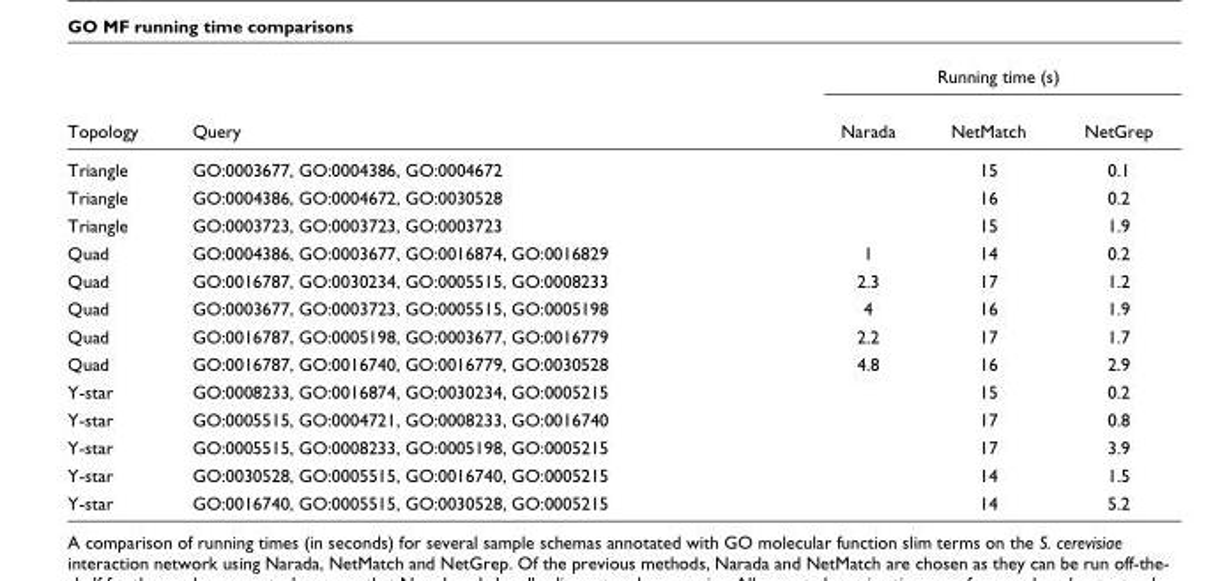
<table><thead><tr><td rowspan="2">Topology</td><td rowspan="2">Query</td><td colspan="3">Running time (s)</td></tr><tr><td>Narada</td><td>NetMatch</td><td>NetGrep</td></tr></thead><tbody><tr><td>Triangle</td><td>GO:0003677, GO:0004386, GO:0004672</td><td></td><td>15</td><td>0.1</td></tr><tr><td>Triangle</td><td>GO:0004386, GO:0004672, GO:0030528</td><td></td><td>16</td><td>0.2</td></tr><tr><td>Triangle</td><td>GO:0003723, GO:0003723, GO:0003723</td><td></td><td>15</td><td>1.9</td></tr><tr><td>Quad</td><td>GO:0004386, GO:0003677, GO:0016874, GO:0016829</td><td>1</td><td>14</td><td>0.2</td></tr><tr><td>Quad</td><td>GO:0016787, GO:0030234, GO:0005515, GO:0008233</td><td>2.3</td><td>17</td><td>1.2</td></tr><tr><td>Quad</td><td>GO:0003677, GO:0003723, GO:0005515, GO:0005198</td><td>4</td><td>16</td><td>1.9</td></tr><tr><td>Quad</td><td>GO:0016787, GO:0005198, GO:0003677, GO:0016779</td><td>2.2</td><td>17</td><td>1.7</td></tr><tr><td>Quad</td><td>GO:0016787, GO:0016740, GO:0016779, GO:0030528</td><td>4.8</td><td>16</td><td>2.9</td></tr><tr><td>Y-star</td><td>GO:0008233, GO:0016874, GO:0030234, GO:0005215</td><td></td><td>15</td><td>0.2</td></tr><tr><td>Y-star</td><td>GO:0005515, GO:0004721, GO:0008233, GO:0016740</td><td></td><td>17</td><td>0.8</td></tr><tr><td>Y-star</td><td>GO:0005515, GO:0008233, GO:0005198, GO:0005215</td><td></td><td>17</td><td>3.9</td></tr><tr><td>Y-star</td><td>GO:0030528, GO:0005515, GO:0016740, GO:0005215</td><td></td><td>14</td><td>1.5</td></tr><tr><td>Y-star</td><td>GO:0016740, GO:0005515, GO:0030528, GO:0005215</td><td></td><td>14</td><td>5.2</td></tr></tbody></table>